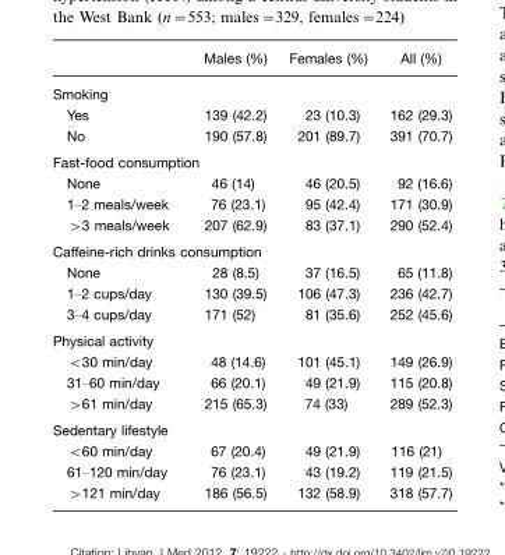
<table><thead><tr><td></td><td>Males (%)</td><td>Females (%)</td><td>All (%)</td></tr></thead><tbody><tr><td colspan="4">Smoking</td></tr><tr><td>Yes</td><td>139 (42.2)</td><td>23 (10.3)</td><td>162 (29.3)</td></tr><tr><td>No</td><td>190 (57.8)</td><td>201 (89.7)</td><td>391 (70.7)</td></tr><tr><td colspan="4">Fast-food consumption</td></tr><tr><td>None</td><td>46 (14)</td><td>46 (20.5)</td><td>92 (16.6)</td></tr><tr><td>1–2 meals/week</td><td>76 (23.1)</td><td>95 (42.4)</td><td>171 (30.9)</td></tr><tr><td>&gt;3 meals/week</td><td>207 (62.9)</td><td>83 (37.1)</td><td>290 (52.4)</td></tr><tr><td colspan="4">Caffeine-rich drinks consumption</td></tr><tr><td>None</td><td>28 (8.5)</td><td>37 (16.5)</td><td>65 (11.8)</td></tr><tr><td>1–2 cups/day</td><td>130 (39.5)</td><td>106 (47.3)</td><td>236 (42.7)</td></tr><tr><td>3–4 cups/day</td><td>171 (52)</td><td>81 (35.6)</td><td>252 (45.6)</td></tr><tr><td colspan="4">Physical activity</td></tr><tr><td>&lt;30 min/day</td><td>48 (14.6)</td><td>101 (45.1)</td><td>149 (26.9)</td></tr><tr><td>31–60 min/day</td><td>66 (20.1)</td><td>49 (21.9)</td><td>115 (20.8)</td></tr><tr><td>&gt;61 min/day</td><td>215 (65.3)</td><td>74 (33)</td><td>289 (52.3)</td></tr><tr><td colspan="4">Sedentary lifestyle</td></tr><tr><td>&lt;60 min/day</td><td>67 (20.4)</td><td>49 (21.9)</td><td>116 (21)</td></tr><tr><td>61–120 min/day</td><td>76 (23.1)</td><td>43 (19.2)</td><td>119 (21.5)</td></tr><tr><td>&gt;121 min/day</td><td>186 (56.5)</td><td>132 (58.9)</td><td>318 (57.7)</td></tr></tbody></table>